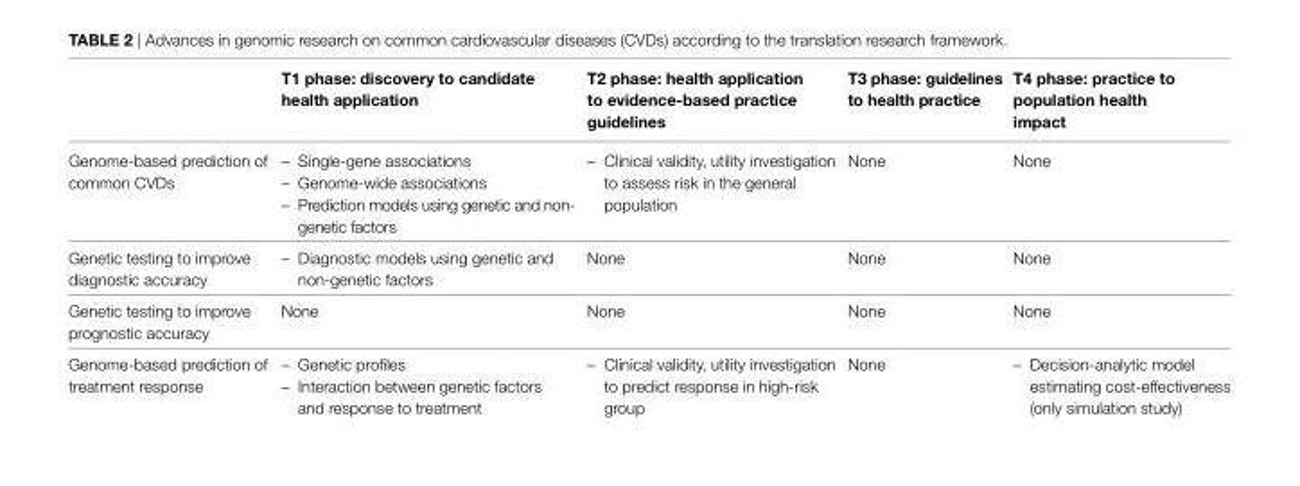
<table><thead><tr><td></td><td>T1 phase: discovery to candidate health application</td><td>T2 phase: health application to evidence-based practice guidelines</td><td>T3 phase: guidelines to health practice</td><td>T4 phase: practice to population health impact</td></tr></thead><tbody><tr><td>Genome-based prediction of common CVDs</td><td>– Single-gene associations – Genome-wide associations – Prediction models using genetic and non- genetic factors</td><td>– Clinical validity, utility investigation to assess risk in the general population</td><td>None</td><td>None</td></tr><tr><td>Genetic testing to improve diagnostic accuracy</td><td>– Diagnostic models using genetic and non-genetic factors</td><td>None</td><td>None</td><td>None</td></tr><tr><td>Genetic testing to improve prognostic accuracy</td><td>None</td><td>None</td><td>None</td><td>None</td></tr><tr><td>Genome-based prediction of treatment response</td><td>– Genetic profiles – Interaction between genetic factors and response to treatment</td><td>– Clinical validity, utility investigation to predict response in high-risk group</td><td>None</td><td>– Decision-analytic model estimating cost-effectiveness (only simulation study)</td></tr></tbody></table>